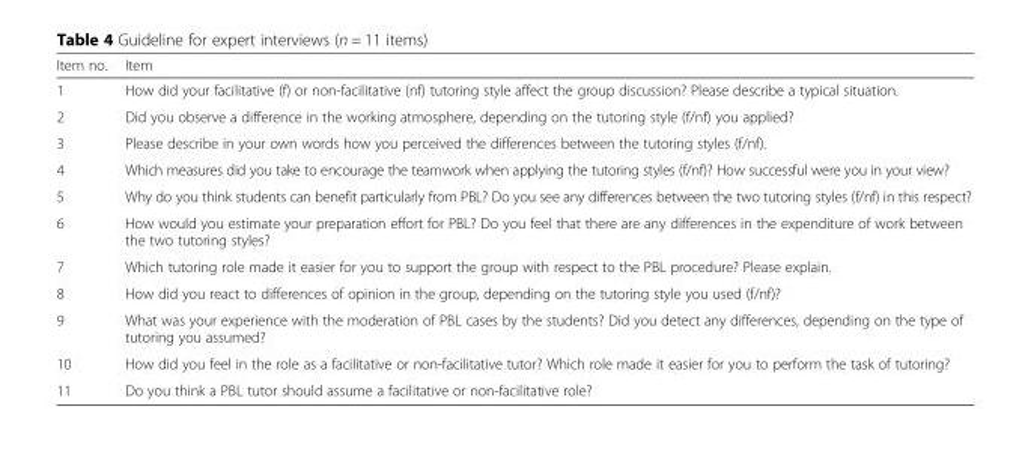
<table><thead><tr><td>Item no.</td><td>Item</td></tr></thead><tbody><tr><td>1</td><td>How did your facilitative (f) or non-facilitative (nf) tutoring style affect the group discussion? Please describe a typical situation.</td></tr><tr><td>2</td><td>Did you observe a difference in the working atmosphere, depending on the tutoring style (f/nf) you applied?</td></tr><tr><td>3</td><td>Please describe in your own words how you perceived the differences between the tutoring styles (f/nf).</td></tr><tr><td>4</td><td>Which measures did you take to encourage the teamwork when applying the tutoring styles (f/nf)? How successful were you in your view?</td></tr><tr><td>5</td><td>Why do you think students can benefit particularly from PBL? Do you see any differences between the two tutoring styles (f/nf) in this respect?</td></tr><tr><td>6</td><td>How would you estimate your preparation effort for PBL? Do you feel that there are any differences in the expenditure of work between the two tutoring styles?</td></tr><tr><td>7</td><td>Which tutoring role made it easier for you to support the group with respect to the PBL procedure? Please explain.</td></tr><tr><td>8</td><td>How did you react to differences of opinion in the group, depending on the tutoring style you used (f/nf)?</td></tr><tr><td>9</td><td>What was your experience with the moderation of PBL cases by the students? Did you detect any differences, depending on the type of tutoring you assumed?</td></tr><tr><td>10</td><td>How did you feel in the role as a facilitative or non-facilitative tutor? Which role made it easier for you to perform the task of tutoring?</td></tr><tr><td>11</td><td>Do you think a PBL tutor should assume a facilitative or non-facilitative role?</td></tr></tbody></table>